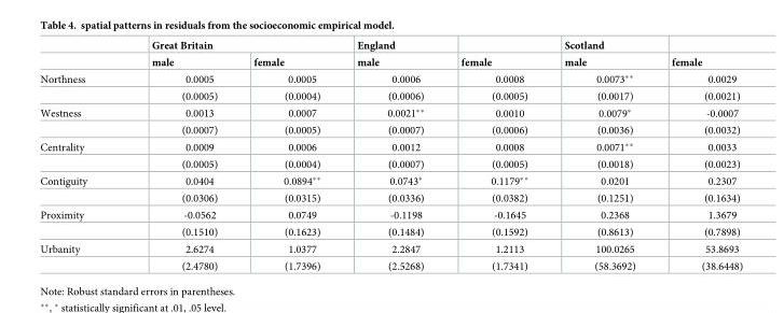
<table><thead><tr><td rowspan="2"></td><td colspan="2">Great Britain</td><td rowspan="2">England male</td><td rowspan="2">female</td><td rowspan="2">Scotland male</td><td rowspan="2">female</td></tr><tr><td>male</td><td>female</td></tr></thead><tbody><tr><td rowspan="2">Northness</td><td>0.0005</td><td>0.0005</td><td>0.0006</td><td>0.0008</td><td>0.0073**</td><td>0.0029</td></tr><tr><td>(0.0005)</td><td>(0.0004)</td><td>(0.0006)</td><td>(0.0005)</td><td>(0.0017)</td><td>(0.0021)</td></tr><tr><td rowspan="2">Westness</td><td>0.0013</td><td>0.0007</td><td>0.0021**</td><td>0.0010</td><td>0.0079*</td><td>-0.0007</td></tr><tr><td>(0.0007)</td><td>(0.0005)</td><td>(0.0007)</td><td>(0.0006)</td><td>(0.0036)</td><td>(0.0032)</td></tr><tr><td rowspan="2">Centrality</td><td>0.0009</td><td>0.0006</td><td>0.0012</td><td>0.0008</td><td>0.0071**</td><td>0.0033</td></tr><tr><td>(0.0005)</td><td>(0.0004)</td><td>(0.0007)</td><td>(0.0005)</td><td>(0.0018)</td><td>(0.0023)</td></tr><tr><td rowspan="2">Contiguity</td><td>0.0404</td><td>0.0894**</td><td>0.0743*</td><td>0.1179**</td><td>0.0201</td><td>0.2307</td></tr><tr><td>(0.0306)</td><td>(0.0315)</td><td>(0.0336)</td><td>(0.0382)</td><td>(0.1251)</td><td>(0.1634)</td></tr><tr><td rowspan="2">Proximity</td><td>-0.0562</td><td>0.0749</td><td>-0.1198</td><td>-0.1645</td><td>0.2368</td><td>1.3679</td></tr><tr><td>(0.1510)</td><td>(0.1623)</td><td>(0.1484)</td><td>(0.1592)</td><td>(0.8613)</td><td>(0.7898)</td></tr><tr><td rowspan="2">Urbanity</td><td>2.6274</td><td>1.0377</td><td>2.2847</td><td>1.2113</td><td>100.0265</td><td>53.8693</td></tr><tr><td>(2.4780)</td><td>(1.7396)</td><td>(2.5268)</td><td>(1.7341)</td><td>(58.3692)</td><td>(38.6448)</td></tr></tbody></table>